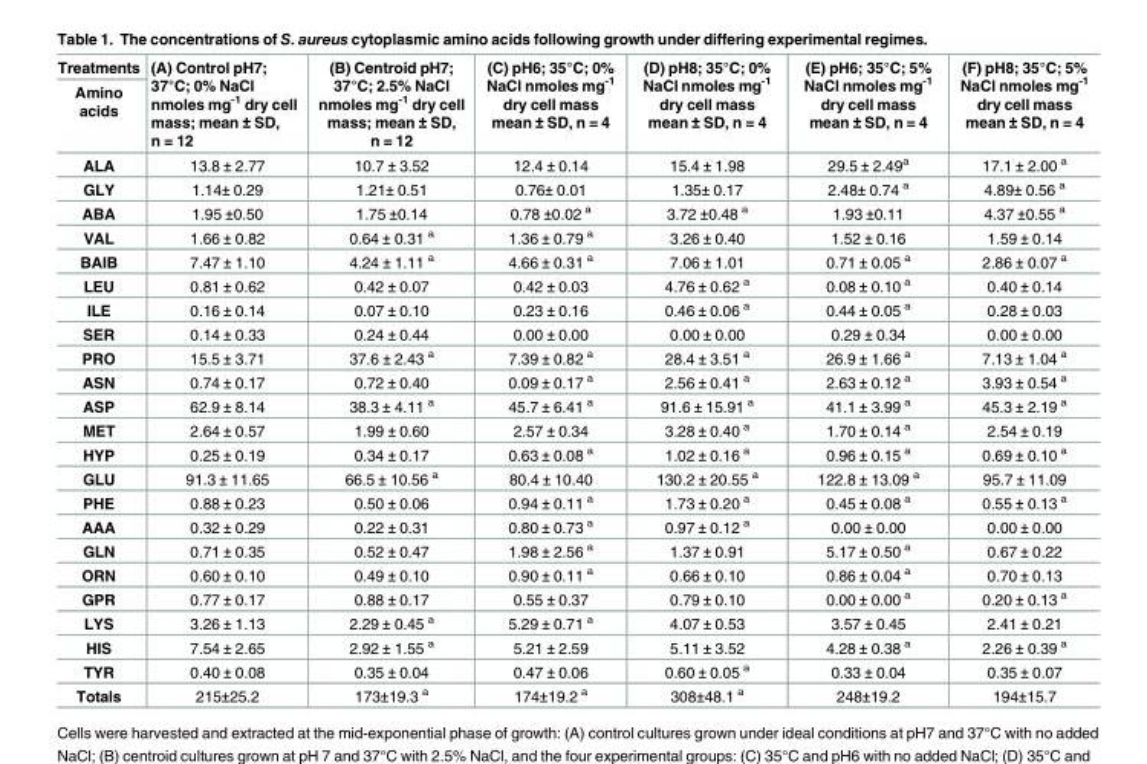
<table><thead><tr><td rowspan="2">Treatments Amino acids</td><td rowspan="2">(A) Control pH7; 37°C; 0% NaCl nmoles mg<sup>-1</sup> dry cell mass; mean ± SD, n = 12</td><td rowspan="2">(B) Centroid pH7; 37°C; 2.5% NaCl nmoles mg<sup>-1</sup> dry cell mass; mean ± SD, n = 12</td><td rowspan="2">(C) pH6; 35°C; 0% NaCl nmoles mg<sup>-1</sup> dry cell mass mean ± SD, n = 4</td><td rowspan="2">(D) pH8; 35°C; 0% NaCl nmoles mg<sup>-1</sup> dry cell mass mean ± SD, n = 4</td><td rowspan="2">(E) pH6; 35°C; 5% NaCl nmoles mg<sup>-1</sup> dry cell mass mean ± SD, n = 4</td><td rowspan="2">(F) pH8; 35°C; 5% NaCl nmoles mg<sup>-1</sup> dry cell mass mean ± SD, n = 4</td></tr><tr></tr></thead><tbody><tr><td>ALA</td><td>13.8 ± 2.77</td><td>10.7 ± 3.52</td><td>12.4 ± 0.14</td><td>15.4 ± 1.98</td><td>29.5 ± 2.49<sup>a</sup></td><td>17.1 ± 2.00 <sup>a</sup></td></tr><tr><td>GLY</td><td>1.14± 0.29</td><td>1.21± 0.51</td><td>0.76± 0.01</td><td>1.35± 0.17</td><td>2.48± 0.74 <sup>a</sup></td><td>4.89± 0.56 <sup>a</sup></td></tr><tr><td>ABA</td><td>1.95 ±0.50</td><td>1.75 ±0.14</td><td>0.78 ±0.02 <sup>a</sup></td><td>3.72 ±0.48 <sup>a</sup></td><td>1.93 ±0.11</td><td>4.37 ±0.55 <sup>a</sup></td></tr><tr><td>VAL</td><td>1.66 ± 0.82</td><td>0.64 ± 0.31 <sup>a</sup></td><td>1.36 ± 0.79 <sup>a</sup></td><td>3.26 ± 0.40</td><td>1.52 ± 0.16</td><td>1.59 ± 0.14</td></tr><tr><td>BAIB</td><td>7.47 ± 1.10</td><td>4.24 ± 1.11 <sup>a</sup></td><td>4.66 ± 0.31 <sup>a</sup></td><td>7.06 ± 1.01</td><td>0.71 ± 0.05 <sup>a</sup></td><td>2.86 ± 0.07 <sup>a</sup></td></tr><tr><td>LEU</td><td>0.81 ± 0.62</td><td>0.42 ± 0.07</td><td>0.42 ± 0.03</td><td>4.76 ± 0.62 <sup>a</sup></td><td>0.08 ± 0.10 <sup>a</sup></td><td>0.40 ± 0.14</td></tr><tr><td>ILE</td><td>0.16 ± 0.14</td><td>0.07 ± 0.10</td><td>0.23 ± 0.16</td><td>0.46 ± 0.06 <sup>a</sup></td><td>0.44 ± 0.05 <sup>a</sup></td><td>0.28 ± 0.03</td></tr><tr><td>SER</td><td>0.14 ± 0.33</td><td>0.24 ± 0.44</td><td>0.00 ± 0.00</td><td>0.00 ± 0.00</td><td>0.29 ± 0.34</td><td>0.00 ± 0.00</td></tr><tr><td>PRO</td><td>15.5 ± 3.71</td><td>37.6 ± 2.43 <sup>a</sup></td><td>7.39 ± 0.82 <sup>a</sup></td><td>28.4 ± 3.51 <sup>a</sup></td><td>26.9 ± 1.66 <sup>a</sup></td><td>7.13 ± 1.04 <sup>a</sup></td></tr><tr><td>ASN</td><td>0.74 ± 0.17</td><td>0.72 ± 0.40</td><td>0.09 ± 0.17 <sup>a</sup></td><td>2.56 ± 0.41 <sup>a</sup></td><td>2.63 ± 0.12 <sup>a</sup></td><td>3.93 ± 0.54 <sup>a</sup></td></tr><tr><td>ASP</td><td>62.9 ± 8.14</td><td>38.3 ± 4.11 <sup>a</sup></td><td>45.7 ± 6.41 <sup>a</sup></td><td>91.6 ± 15.91 <sup>a</sup></td><td>41.1 ± 3.99 <sup>a</sup></td><td>45.3 ± 2.19 <sup>a</sup></td></tr><tr><td>MET</td><td>2.64 ± 0.57</td><td>1.99 ± 0.60</td><td>2.57 ± 0.34</td><td>3.28 ± 0.40 <sup>a</sup></td><td>1.70 ± 0.14 <sup>a</sup></td><td>2.54 ± 0.19</td></tr><tr><td>HYP</td><td>0.25 ± 0.19</td><td>0.34 ± 0.17</td><td>0.63 ± 0.08 <sup>a</sup></td><td>1.02 ± 0.16 <sup>a</sup></td><td>0.96 ± 0.15 <sup>a</sup></td><td>0.69 ± 0.10 <sup>a</sup></td></tr><tr><td>GLU</td><td>91.3 ± 11.65</td><td>66.5 ± 10.56 <sup>a</sup></td><td>80.4 ± 10.40</td><td>130.2 ± 20.55 <sup>a</sup></td><td>122.8 ± 13.09 <sup>a</sup></td><td>95.7 ± 11.09</td></tr><tr><td>PHE</td><td>0.88 ± 0.23</td><td>0.50 ± 0.06</td><td>0.94 ± 0.11 <sup>a</sup></td><td>1.73 ± 0.20 <sup>a</sup></td><td>0.45 ± 0.08 <sup>a</sup></td><td>0.55 ± 0.13 <sup>a</sup></td></tr><tr><td>AAA</td><td>0.32 ± 0.29</td><td>0.22 ± 0.31</td><td>0.80 ± 0.73 <sup>a</sup></td><td>0.97 ± 0.12 <sup>a</sup></td><td>0.00 ± 0.00</td><td>0.00 ± 0.00</td></tr><tr><td>GLN</td><td>0.71 ± 0.35</td><td>0.52 ± 0.47</td><td>1.98 ± 2.56 <sup>a</sup></td><td>1.37 ± 0.91</td><td>5.17 ± 0.50 <sup>a</sup></td><td>0.67 ± 0.22</td></tr><tr><td>ORN</td><td>0.60 ± 0.10</td><td>0.49 ± 0.10</td><td>0.90 ± 0.11 <sup>a</sup></td><td>0.66 ± 0.10</td><td>0.86 ± 0.04 <sup>a</sup></td><td>0.70 ± 0.13</td></tr><tr><td>GPR</td><td>0.77 ± 0.17</td><td>0.88 ± 0.17</td><td>0.55 ± 0.37</td><td>0.79 ± 0.10</td><td>0.00 ± 0.00 <sup>a</sup></td><td>0.20 ± 0.13 <sup>a</sup></td></tr><tr><td>LYS</td><td>3.26 ± 1.13</td><td>2.29 ± 0.45 <sup>a</sup></td><td>5.29 ± 0.71 <sup>a</sup></td><td>4.07 ± 0.53</td><td>3.57 ± 0.45</td><td>2.41 ± 0.21</td></tr><tr><td>HIS</td><td>7.54 ± 2.65</td><td>2.92 ± 1.55 <sup>a</sup></td><td>5.21 ± 2.59</td><td>5.11 ± 3.52</td><td>4.28 ± 0.38 <sup>a</sup></td><td>2.26 ± 0.39 <sup>a</sup></td></tr><tr><td>TYR</td><td>0.40 ± 0.08</td><td>0.35 ± 0.04</td><td>0.47 ± 0.06</td><td>0.60 ± 0.05 <sup>a</sup></td><td>0.33 ± 0.04</td><td>0.35 ± 0.07</td></tr><tr><td>Totals</td><td>215±25.2</td><td>173±19.3 <sup>a</sup></td><td>174±19.2 <sup>a</sup></td><td>308±48.1 <sup>a</sup></td><td>248±19.2</td><td>194±15.7</td></tr></tbody></table>